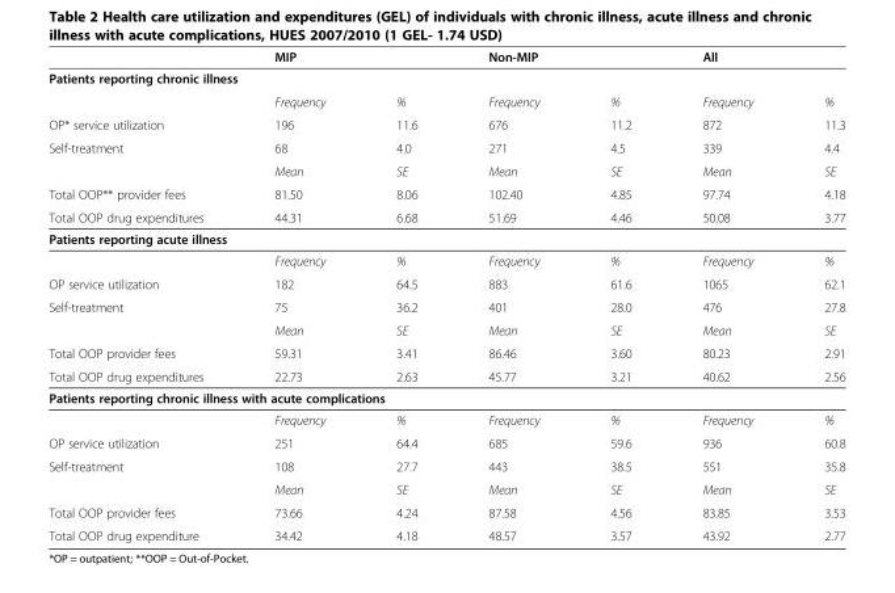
<table><thead><tr><td></td><td colspan="2">MIP</td><td colspan="2">Non-MIP</td><td colspan="2">All</td></tr><tr><td colspan="7">Patients reporting chronic illness</td></tr><tr><td></td><td>Frequency</td><td>%</td><td>Frequency</td><td>%</td><td>Frequency</td><td>%</td></tr></thead><tbody><tr><td>OP* service utilization</td><td>196</td><td>11.6</td><td>676</td><td>11.2</td><td>872</td><td>11.3</td></tr><tr><td rowspan="2">Self-treatment</td><td>68</td><td>4.0</td><td>271</td><td>4.5</td><td>339</td><td>4.4</td></tr><tr><td>Mean</td><td>SE</td><td>Mean</td><td>SE</td><td>Mean</td><td>SE</td></tr><tr><td>Total OOP** provider fees</td><td>81.50</td><td>8.06</td><td>102.40</td><td>4.85</td><td>97.74</td><td>4.18</td></tr><tr><td>Total OOP drug expenditures</td><td>44.31</td><td>6.68</td><td>51.69</td><td>4.46</td><td>50.08</td><td>3.77</td></tr><tr><td colspan="7">Patients reporting acute illness</td></tr><tr><td></td><td>Frequency</td><td>%</td><td>Frequency</td><td>%</td><td>Frequency</td><td>%</td></tr><tr><td>OP service utilization</td><td>182</td><td>64.5</td><td>883</td><td>61.6</td><td>1065</td><td>62.1</td></tr><tr><td rowspan="2">Self-treatment</td><td>75</td><td>36.2</td><td>401</td><td>28.0</td><td>476</td><td>27.8</td></tr><tr><td>Mean</td><td>SE</td><td>Mean</td><td>SE</td><td>Mean</td><td>SE</td></tr><tr><td>Total OOP provider fees</td><td>59.31</td><td>3.41</td><td>86.46</td><td>3.60</td><td>80.23</td><td>2.91</td></tr><tr><td>Total OOP drug expenditures</td><td>22.73</td><td>2.63</td><td>45.77</td><td>3.21</td><td>40.62</td><td>2.56</td></tr><tr><td colspan="7">Patients reporting chronic illness with acute complications</td></tr><tr><td></td><td>Frequency</td><td>%</td><td>Frequency</td><td>%</td><td>Frequency</td><td>%</td></tr><tr><td>OP service utilization</td><td>251</td><td>64.4</td><td>685</td><td>59.6</td><td>936</td><td>60.8</td></tr><tr><td rowspan="2">Self-treatment</td><td>108</td><td>27.7</td><td>443</td><td>38.5</td><td>551</td><td>35.8</td></tr><tr><td>Mean</td><td>SE</td><td>Mean</td><td>SE</td><td>Mean</td><td>SE</td></tr><tr><td>Total OOP provider fees</td><td>73.66</td><td>4.24</td><td>87.58</td><td>4.56</td><td>83.85</td><td>3.53</td></tr><tr><td>Total OOP drug expenditure</td><td>34.42</td><td>4.18</td><td>48.57</td><td>3.57</td><td>43.92</td><td>2.77</td></tr></tbody></table>